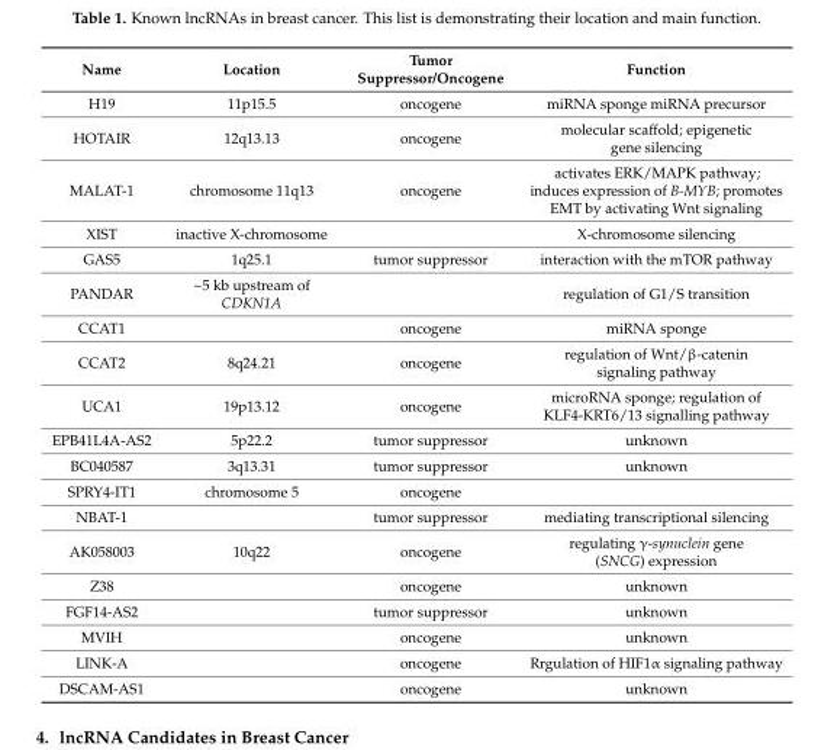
<table><thead><tr><td>Name</td><td>Location</td><td>Tumor Suppressor/Oncogene</td><td>Function</td></tr></thead><tbody><tr><td>H19</td><td>11p15.5</td><td>oncogene</td><td>miRNA sponge miRNA precursor</td></tr><tr><td>HOTAIR</td><td>12q13.13</td><td>oncogene</td><td>molecular scaffold; epigenetic gene silencing</td></tr><tr><td>MALAT-1</td><td>chromosome 11q13</td><td>oncogene</td><td>activates ERK/MAPK pathway; induces expression of B-MYB; promotes EMT by activating Wnt signaling</td></tr><tr><td>XIST</td><td>inactive X-chromosome</td><td></td><td>X-chromosome silencing</td></tr><tr><td>GAS5</td><td>1q25.1</td><td>tumor suppressor</td><td>interaction with the mTOR pathway</td></tr><tr><td>PANDAR</td><td>~5 kb upstream of CDKN1A</td><td></td><td>regulation of G1/S transition</td></tr><tr><td>CCAT1</td><td></td><td>oncogene</td><td>miRNA sponge</td></tr><tr><td>CCAT2</td><td>8q24.21</td><td>oncogene</td><td>regulation of Wnt/β-catenin signaling pathway</td></tr><tr><td>UCA1</td><td>19p13.12</td><td>oncogene</td><td>microRNA sponge; regulation of KLF4-KRT6/13 signalling pathway</td></tr><tr><td>EPB41L4A-AS2</td><td>5p22.2</td><td>tumor suppressor</td><td>unknown</td></tr><tr><td>BC040587</td><td>3q13.31</td><td>tumor suppressor</td><td>unknown</td></tr><tr><td>SPRY4-IT1</td><td>chromosome 5</td><td>oncogene</td><td></td></tr><tr><td>NBAT-1</td><td></td><td>tumor suppressor</td><td>mediating transcriptional silencing</td></tr><tr><td>AK058003</td><td>10q22</td><td>oncogene</td><td>regulating γ-synuclein gene (SNCG) expression</td></tr><tr><td>Z38</td><td></td><td>oncogene</td><td>unknown</td></tr><tr><td>FGF14-AS2</td><td></td><td>tumor suppressor</td><td>unknown</td></tr><tr><td>MVIH</td><td></td><td>oncogene</td><td>unknown</td></tr><tr><td>LINK-A</td><td></td><td>oncogene</td><td>Rrgulation of HIF1α signaling pathway</td></tr><tr><td>DSCAM-AS1</td><td></td><td>oncogene</td><td>unknown</td></tr></tbody></table>